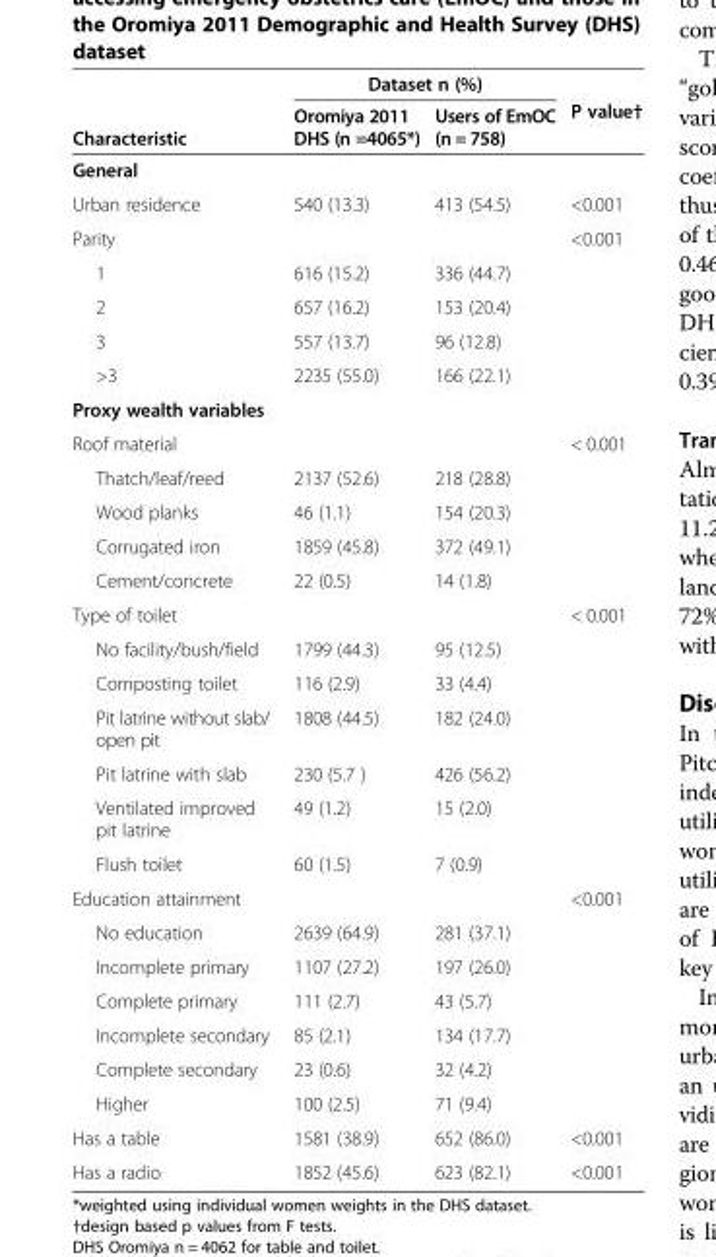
<table><thead><tr><td rowspan="2">Characteristic</td><td colspan="2">Dataset n (%)</td><td rowspan="2">P value†</td></tr><tr><td>Oromiya 2011 DHS (n =4065*)</td><td>Users of EmOC (n = 758)</td></tr></thead><tbody><tr><td colspan="4">General</td></tr><tr><td>Urban residence</td><td>540 (13.3)</td><td>413 (54.5)</td><td>&lt;0.001</td></tr><tr><td>Parity</td><td></td><td></td><td>&lt;0.001</td></tr><tr><td>1</td><td>616 (15.2)</td><td>336 (44.7)</td><td></td></tr><tr><td>2</td><td>657 (16.2)</td><td>153 (20.4)</td><td></td></tr><tr><td>3</td><td>557 (13.7)</td><td>96 (12.8)</td><td></td></tr><tr><td>&gt;3</td><td>2235 (55.0)</td><td>166 (22.1)</td><td></td></tr><tr><td colspan="4">Proxy wealth variables</td></tr><tr><td>Roof material</td><td></td><td></td><td>&lt; 0.001</td></tr><tr><td>Thatch/leaf/reed</td><td>2137 (52.6)</td><td>218 (28.8)</td><td></td></tr><tr><td>Wood planks</td><td>46 (1.1)</td><td>154 (20.3)</td><td></td></tr><tr><td>Corrugated iron</td><td>1859 (45.8)</td><td>372 (49.1)</td><td></td></tr><tr><td>Cement/concrete</td><td>22 (0.5)</td><td>14 (1.8)</td><td></td></tr><tr><td>Type of toilet</td><td></td><td></td><td>&lt; 0.001</td></tr><tr><td>No facility/bush/field</td><td>1799 (44.3)</td><td>95 (12.5)</td><td></td></tr><tr><td>Composting toilet</td><td>116 (2.9)</td><td>33 (4.4)</td><td></td></tr><tr><td>Pit latrine without slab/ open pit</td><td>1808 (44.5)</td><td>182 (24.0)</td><td></td></tr><tr><td>Pit latrine with slab</td><td>230 (5.7 )</td><td>426 (56.2)</td><td></td></tr><tr><td>Ventilated improved pit latrine</td><td>49 (1.2)</td><td>15 (2.0)</td><td></td></tr><tr><td>Flush toilet</td><td>60 (1.5)</td><td>7 (0.9)</td><td></td></tr><tr><td>Education attainment</td><td></td><td></td><td>&lt;0.001</td></tr><tr><td>No education</td><td>2639 (64.9)</td><td>281 (37.1)</td><td></td></tr><tr><td>Incomplete primary</td><td>1107 (27.2)</td><td>197 (26.0)</td><td></td></tr><tr><td>Complete primary</td><td>111 (2.7)</td><td>43 (5.7)</td><td></td></tr><tr><td>Incomplete secondary</td><td>85 (2.1)</td><td>134 (17.7)</td><td></td></tr><tr><td>Complete secondary</td><td>23 (0.6)</td><td>32 (4.2)</td><td></td></tr><tr><td>Higher</td><td>100 (2.5)</td><td>71 (9.4)</td><td></td></tr><tr><td>Has a table</td><td>1581 (38.9)</td><td>652 (86.0)</td><td>&lt;0.001</td></tr><tr><td>Has a radio</td><td>1852 (45.6)</td><td>623 (82.1)</td><td>&lt;0.001</td></tr></tbody></table>